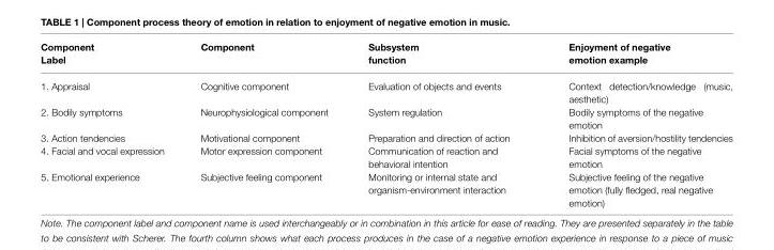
<table><thead><tr><td>Component Label</td><td>Component</td><td>Subsystem function</td><td>Enjoyment of negative emotion example</td></tr></thead><tbody><tr><td>1. Appraisal</td><td>Cognitive component</td><td>Evaluation of objects and events</td><td>Context detection/knowledge (music, aesthetic)</td></tr><tr><td>2. Bodily symptoms</td><td>Neurophysiological component</td><td>System regulation</td><td>Bodily symptoms of the negative emotion</td></tr><tr><td>3. Action tendencies</td><td>Motivational component</td><td>Preparation and direction of action</td><td>Inhibition of aversion/hostility tendencies</td></tr><tr><td>4. Facial and vocal expression</td><td>Motor expression component</td><td>Communication of reaction and behavioral intention</td><td>Facial symptoms of the negative emotion</td></tr><tr><td>5. Emotional experience</td><td>Subjective feeling component</td><td>Monitoring or internal state and organism-environment interaction</td><td>Subjective feeling of the negative emotion (fully fledged, real negative emotion)</td></tr></tbody></table>